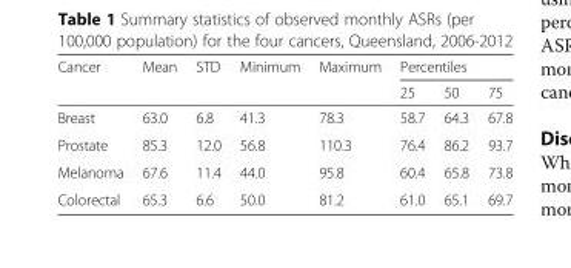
<table><thead><tr><td rowspan="2">Cancer</td><td rowspan="2">Mean</td><td rowspan="2">STD</td><td rowspan="2">Minimum</td><td rowspan="2">Maximum</td><td colspan="3">Percentiles</td></tr><tr><td>25</td><td>50</td><td>75</td></tr></thead><tbody><tr><td>Breast</td><td>63.0</td><td>6.8</td><td>41.3</td><td>78.3</td><td>58.7</td><td>64.3</td><td>67.8</td></tr><tr><td>Prostate</td><td>85.3</td><td>12.0</td><td>56.8</td><td>110.3</td><td>76.4</td><td>86.2</td><td>93.7</td></tr><tr><td>Melanoma</td><td>67.6</td><td>11.4</td><td>44.0</td><td>95.8</td><td>60.4</td><td>65.8</td><td>73.8</td></tr><tr><td>Colorectal</td><td>65.3</td><td>6.6</td><td>50.0</td><td>81.2</td><td>61.0</td><td>65.1</td><td>69.7</td></tr></tbody></table>